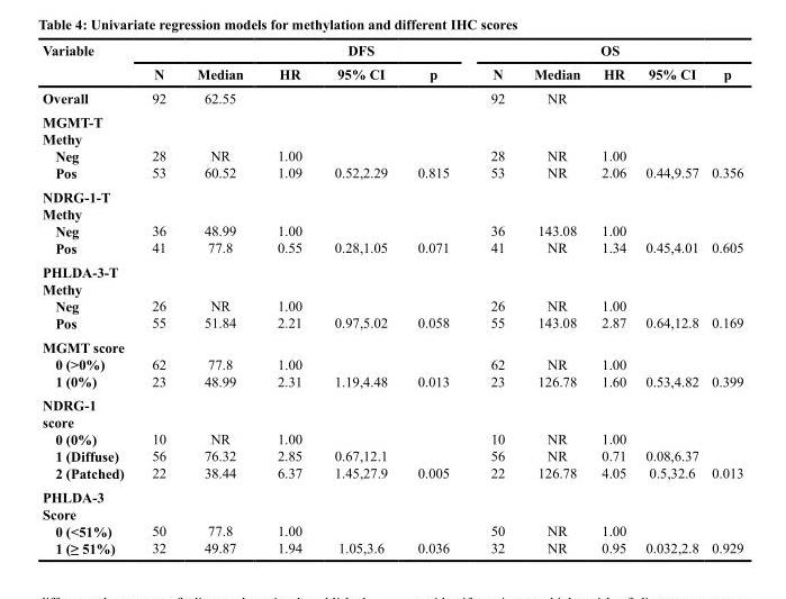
<table><thead><tr><td rowspan="2">Variable</td><td colspan="5">DFS</td><td colspan="5">OS</td></tr><tr><td>N</td><td>Median</td><td>HR</td><td>95% CI</td><td>p</td><td>N</td><td>Median</td><td>HR</td><td>95% CI</td><td>p</td></tr></thead><tbody><tr><td>Overall</td><td>92</td><td>62.55</td><td></td><td></td><td></td><td>92</td><td>NR</td><td colspan="3"></td></tr><tr><td>MGMT-T Methy Neg Pos</td><td>28 53</td><td>NR 60.52</td><td>1.00 1.09</td><td>0.52,2.29</td><td>0.815</td><td>28 53</td><td>NR NR</td><td>1.00 2.06</td><td>0.44,9.57</td><td>0.356</td></tr><tr><td>NDRG-1-T Methy Neg Pos</td><td>36 41</td><td>48.99 77.8</td><td>1.00 0.55</td><td>0.28,1.05</td><td>0.071</td><td>36 41</td><td>143.08 NR</td><td>1.00 1.34</td><td>0.45,4.01</td><td>0.605</td></tr><tr><td>PHLDA-3-T Methy Neg Pos</td><td>26 55</td><td>NR 51.84</td><td>1.00 2.21</td><td>0.97,5.02</td><td>0.058</td><td>26 55</td><td>NR 143.08</td><td>1.00 2.87</td><td>0.64,12.8</td><td>0.169</td></tr><tr><td>MGMT score 0 (&gt;0%) 1 (0%)</td><td>62 23</td><td>77.8 48.99</td><td>1.00 2.31</td><td>1.19,4.48</td><td>0.013</td><td>62 23</td><td>NR 126.78</td><td>1.00 1.60</td><td>0.53,4.82</td><td>0.399</td></tr><tr><td>NDRG-1 score 0 (0%) 1 (Diffuse) 2 (Patched)</td><td>10 56 22</td><td>NR 76.32 38.44</td><td>1.00 2.85 6.37</td><td>0.67,12.1 1.45,27.9</td><td>0.005</td><td>10 56 22</td><td>NR NR 126.78</td><td>1.00 0.71 4.05</td><td>0.08,6.37 0.5,32.6</td><td>0.013</td></tr><tr><td>PHLDA-3 Score 0 (&lt;51%) 1 (≥ 51%)</td><td>50 32</td><td>77.8 49.87</td><td>1.00 1.94</td><td>1.05,3.6</td><td>0.036</td><td>50 32</td><td>NR NR</td><td>1.00 0.95</td><td>0.032,2.8</td><td>0.929</td></tr></tbody></table>